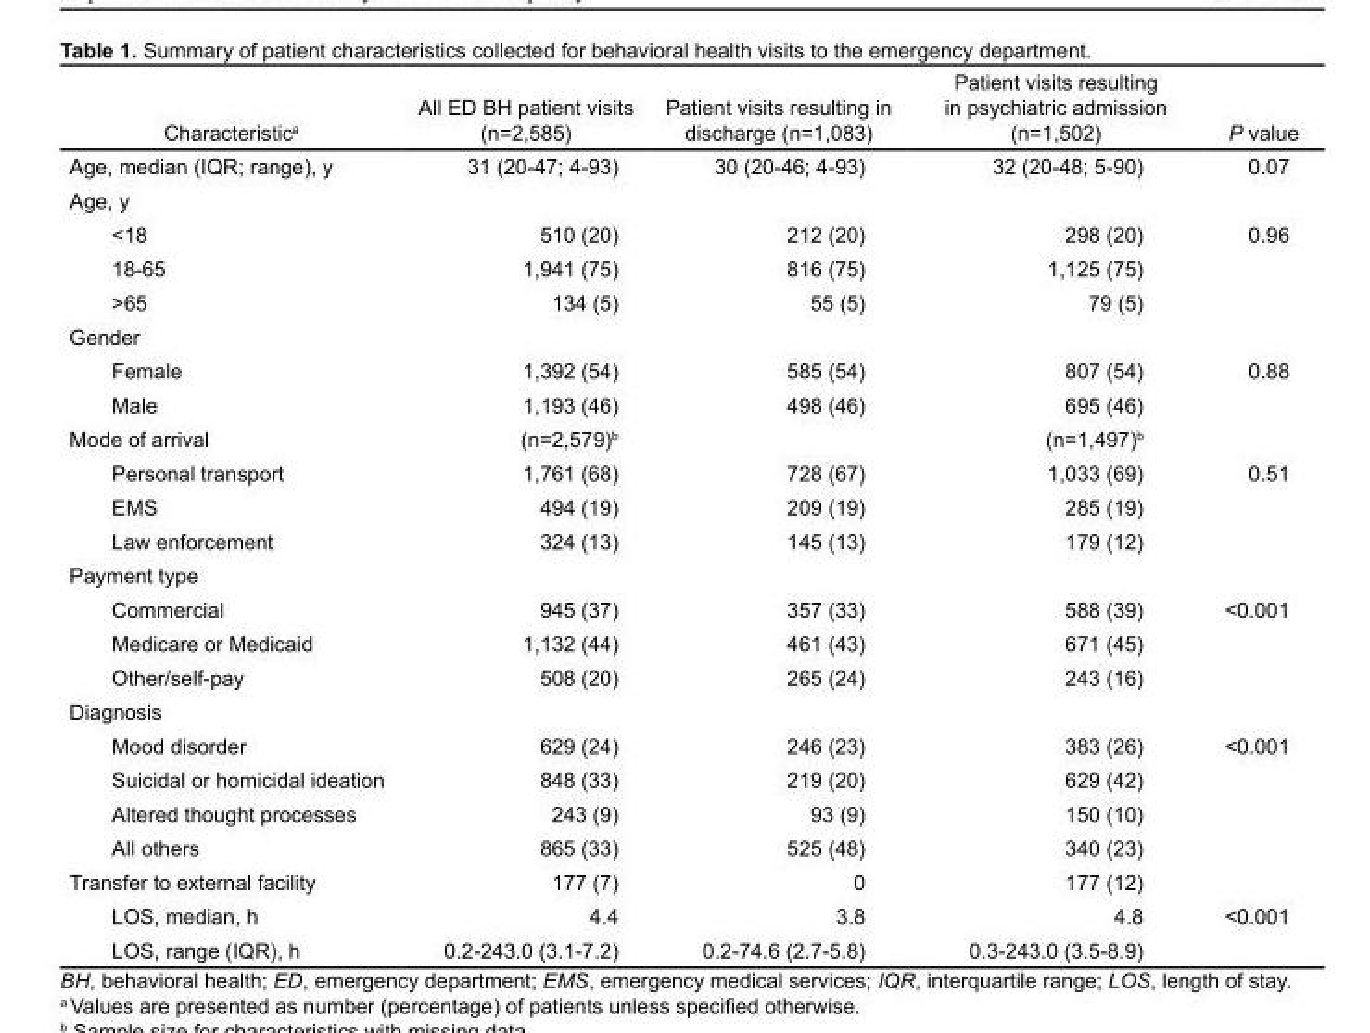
<table><thead><tr><td>Characteristic<sup>a</sup></td><td>All ED BH patient visits (n=2,585)</td><td>Patient visits resulting in discharge (n=1,083)</td><td>Patient visits resulting in psychiatric admission (n=1,502)</td><td>P value</td></tr></thead><tbody><tr><td>Age, median (IQR; range), y</td><td>31 (20-47; 4-93)</td><td>30 (20-46; 4-93)</td><td>32 (20-48; 5-90)</td><td>0.07</td></tr><tr><td colspan="5">Age, y</td></tr><tr><td>&lt;18</td><td>510 (20)</td><td>212 (20)</td><td>298 (20)</td><td>0.96</td></tr><tr><td>18-65</td><td>1,941 (75)</td><td>816 (75)</td><td>1,125 (75)</td><td></td></tr><tr><td>&gt;65</td><td>134 (5)</td><td>55 (5)</td><td>79 (5)</td><td></td></tr><tr><td colspan="5">Gender</td></tr><tr><td>Female</td><td>1,392 (54)</td><td>585 (54)</td><td>807 (54)</td><td>0.88</td></tr><tr><td>Male</td><td>1,193 (46)</td><td>498 (46)</td><td>695 (46)</td><td></td></tr><tr><td>Mode of arrival</td><td>(n=2,579)<sup>b</sup></td><td></td><td>(n=1,497)<sup>b</sup></td><td></td></tr><tr><td>Personal transport</td><td>1,761 (68)</td><td>728 (67)</td><td>1,033 (69)</td><td>0.51</td></tr><tr><td>EMS</td><td>494 (19)</td><td>209 (19)</td><td>285 (19)</td><td></td></tr><tr><td>Law enforcement</td><td>324 (13)</td><td>145 (13)</td><td>179 (12)</td><td></td></tr><tr><td colspan="5">Payment type</td></tr><tr><td>Commercial</td><td>945 (37)</td><td>357 (33)</td><td>588 (39)</td><td>&lt;0.001</td></tr><tr><td>Medicare or Medicaid</td><td>1,132 (44)</td><td>461 (43)</td><td>671 (45)</td><td></td></tr><tr><td>Other/self-pay</td><td>508 (20)</td><td>265 (24)</td><td>243 (16)</td><td></td></tr><tr><td colspan="5">Diagnosis</td></tr><tr><td>Mood disorder</td><td>629 (24)</td><td>246 (23)</td><td>383 (26)</td><td>&lt;0.001</td></tr><tr><td>Suicidal or homicidal ideation</td><td>848 (33)</td><td>219 (20)</td><td>629 (42)</td><td></td></tr><tr><td>Altered thought processes</td><td>243 (9)</td><td>93 (9)</td><td>150 (10)</td><td></td></tr><tr><td>All others</td><td>865 (33)</td><td>525 (48)</td><td>340 (23)</td><td></td></tr><tr><td>Transfer to external facility</td><td>177 (7)</td><td>0</td><td>177 (12)</td><td></td></tr><tr><td>LOS, median, h</td><td>4.4</td><td>3.8</td><td>4.8</td><td>&lt;0.001</td></tr><tr><td>LOS, range (IQR), h</td><td>0.2-243.0 (3.1-7.2)</td><td>0.2-74.6 (2.7-5.8)</td><td>0.3-243.0 (3.5-8.9)</td><td></td></tr></tbody></table>